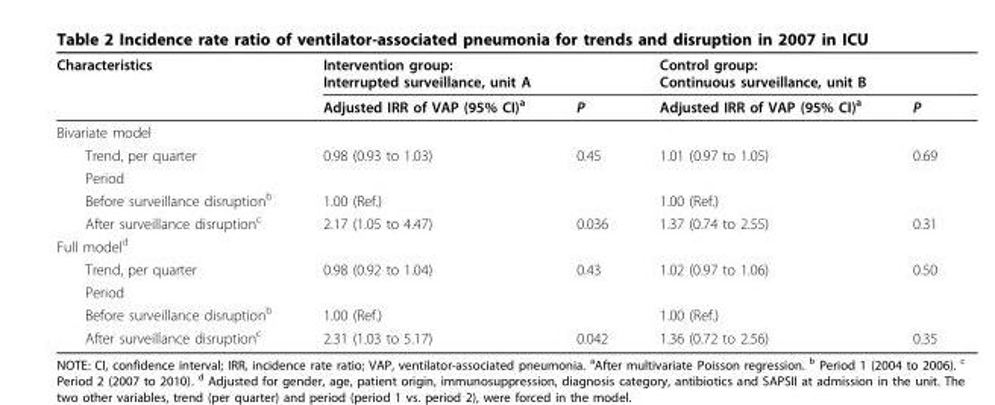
<table><thead><tr><td rowspan="2">Characteristics</td><td colspan="2">Intervention group: Interrupted surveillance, unit A</td><td colspan="2">Control group: Continuous surveillance, unit B</td></tr><tr><td>Adjusted IRR of VAP (95% CI)<sup>a</sup></td><td>P</td><td>Adjusted IRR of VAP (95% CI)<sup>a</sup></td><td>P</td></tr></thead><tbody><tr><td colspan="5">Bivariate model</td></tr><tr><td>Trend, per quarter</td><td>0.98 (0.93 to 1.03)</td><td>0.45</td><td>1.01 (0.97 to 1.05)</td><td>0.69</td></tr><tr><td colspan="5">Period</td></tr><tr><td>Before surveillance disruption<sup>b</sup></td><td>1.00 (Ref.)</td><td></td><td>1.00 (Ref.)</td><td></td></tr><tr><td>After surveillance disruption<sup>c</sup></td><td>2.17 (1.05 to 4.47)</td><td>0.036</td><td>1.37 (0.74 to 2.55)</td><td>0.31</td></tr><tr><td colspan="5">Full model<sup>d</sup></td></tr><tr><td>Trend, per quarter</td><td>0.98 (0.92 to 1.04)</td><td>0.43</td><td>1.02 (0.97 to 1.06)</td><td>0.50</td></tr><tr><td colspan="5">Period</td></tr><tr><td>Before surveillance disruption<sup>b</sup></td><td>1.00 (Ref.)</td><td></td><td>1.00 (Ref.)</td><td></td></tr><tr><td>After surveillance disruption<sup>c</sup></td><td>2.31 (1.03 to 5.17)</td><td>0.042</td><td>1.36 (0.72 to 2.56)</td><td>0.35</td></tr></tbody></table>